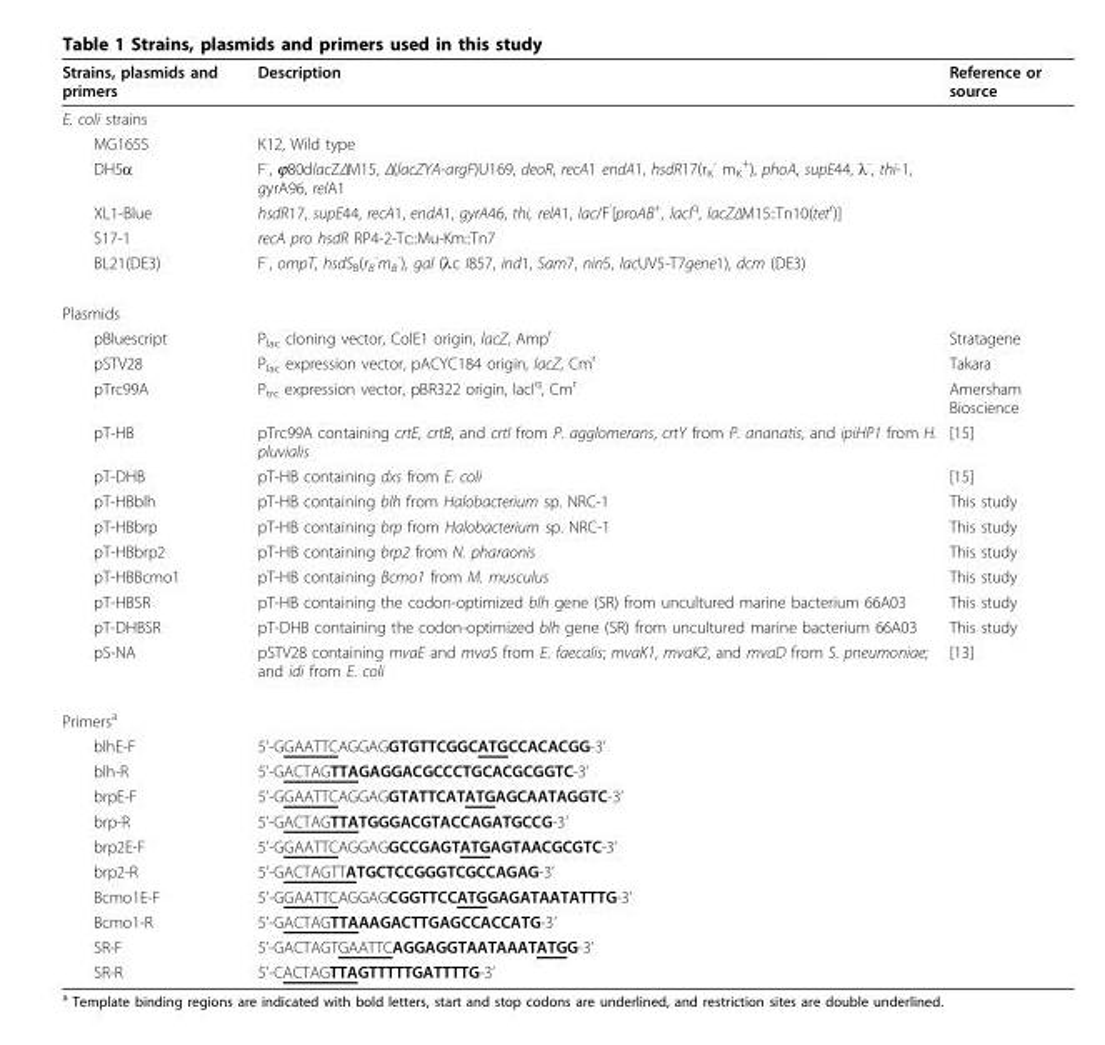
<table><thead><tr><td>Strains, plasmids and primers</td><td>Description</td><td>Reference or source</td></tr></thead><tbody><tr><td colspan="3">E. coli strains</td></tr><tr><td>MG1655</td><td>K12, Wild type</td><td></td></tr><tr><td>DH5α</td><td>F<sup>-</sup>, ϕ80dlacZΔM15, Δ(lacZYA-argF)U169, deoR, recA1 endA1, hsdR17(r<sub>K</sub> <sup>-</sup> m<sub>K</sub> <sup>+</sup>), phoA, supE44, λ<sup>-</sup>, thi-1, gyrA96, relA1</td><td></td></tr><tr><td>XL1-Blue</td><td>hsdR17, supE44, recA1, endA1, gyrA46, thi, relA1, lac/F<sup>’</sup>[proAB<sup>+</sup>, lacI<sup>q</sup>, lacZΔM15::Tn10(tet<sup>r</sup>)]</td><td></td></tr><tr><td>S17-1</td><td>recA pro hsdR RP4-2-Tc::Mu-Km::Tn7</td><td></td></tr><tr><td>BL21(DE3)</td><td>F<sup>-</sup>, ompT, hsdS<sub>B</sub>(r<sub>B</sub> <sup>-</sup>m<sub>B</sub> <sup>-</sup>), gal (λc I857, ind1, Sam7, nin5, lacUV5-T7gene1), dcm (DE3)</td><td></td></tr><tr><td colspan="3">Plasmids</td></tr><tr><td>pBluescript</td><td>P<sub>lac</sub> cloning vector, ColE1 origin, lacZ, Amp<sup>r</sup></td><td>Stratagene</td></tr><tr><td>pSTV28</td><td>P<sub>lac</sub> expression vector, pACYC184 origin, lacZ, Cm<sup>r</sup></td><td>Takara</td></tr><tr><td>pTrc99A</td><td>P<sub>trc</sub> expression vector, pBR322 origin, lacI<sup>q</sup>, Cm<sup>r</sup></td><td>Amersham Bioscience</td></tr><tr><td>pT-HB</td><td>pTrc99A containing crtE, crtB, and crtI from P. agglomerans, crtY from P. ananatis, and ipiHP1 from H. pluvialis</td><td>[15]</td></tr><tr><td>pT-DHB</td><td>pT-HB containing dxs from E. coli</td><td>[15]</td></tr><tr><td>pT-HBblh</td><td>pT-HB containing blh from Halobacterium sp. NRC-1</td><td>This study</td></tr><tr><td>pT-HBbrp</td><td>pT-HB containing brp from Halobacterium sp. NRC-1</td><td>This study</td></tr><tr><td>pT-HBbrp2</td><td>pT-HB containing brp2 from N. pharaonis</td><td>This study</td></tr><tr><td>pT-HBBcmo1</td><td>pT-HB containing Bcmo1 from M. musculus</td><td>This study</td></tr><tr><td>pT-HBSR</td><td>pT-HB containing the codon-optimized blh gene (SR) from uncultured marine bacterium 66A03</td><td>This study</td></tr><tr><td>pT-DHBSR</td><td>pT-DHB containing the codon-optimized blh gene (SR) from uncultured marine bacterium 66A03</td><td>This study</td></tr><tr><td>pS-NA</td><td>pSTV28 containing mvaE and mvaS from E. faecalis; mvaK1, mvaK2, and mvaD from S. pneumoniae; and idi from E. coli</td><td>[13]</td></tr><tr><td colspan="3">Primers<sup>a</sup></td></tr><tr><td>blhE-F</td><td>5’-GGAATTCAGGAGGTGTTCGGCATGCCACACGG-3’</td><td></td></tr><tr><td>blh-R</td><td>5’-GACTAGTTAGAGGACGCCCTGCACGCGGTC-3’</td><td></td></tr><tr><td>brpE-F</td><td>5’-GGAATTCAGGAGGTATTCATATGAGCAATAGGTC-3’</td><td></td></tr><tr><td>brp-R</td><td>5’-GACTAGTTATGGGACGTACCAGATGCCG-3’</td><td></td></tr><tr><td>brp2E-F</td><td>5’-GGAATTCAGGAGGCCGAGTATGAGTAACGCGTC-3’</td><td></td></tr><tr><td>brp2-R</td><td>5’-GACTAGTTATGCTCCGGGTCGCCAGAG-3’</td><td></td></tr><tr><td>Bcmo1E-F</td><td>5’-GGAATTCAGGAGCGGTTCCATGGAGATAATATTTG-3’</td><td></td></tr><tr><td>Bcmo1-R</td><td>5’-GACTAGTTAAAGACTTGAGCCACCATG-3’</td><td></td></tr><tr><td>SR-F</td><td>5’-GACTAGTGAATTCAGGAGGTAATAAATATGG-3’</td><td></td></tr><tr><td>SR-R</td><td>5’-CACTAGTTAGTTTTTGATTTTG-3’</td><td></td></tr></tbody></table>